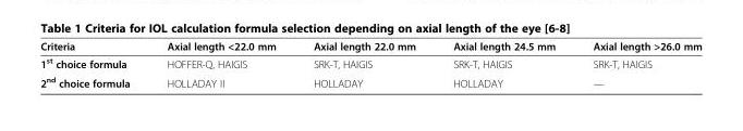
<table><thead><tr><td>Criteria</td><td>Axial length &lt;22.0 mm</td><td>Axial length 22.0 mm</td><td>Axial length 24.5 mm</td><td>Axial length &gt;26.0 mm</td></tr></thead><tbody><tr><td>1<sup>st</sup> choice formula</td><td>HOFFER-Q, HAIGIS</td><td>SRK-T, HAIGIS</td><td>SRK-T, HAIGIS</td><td>SRK-T, HAIGIS</td></tr><tr><td>2<sup>nd</sup> choice formula</td><td>HOLLADAY II</td><td>HOLLADAY</td><td>HOLLADAY</td><td>—</td></tr></tbody></table>